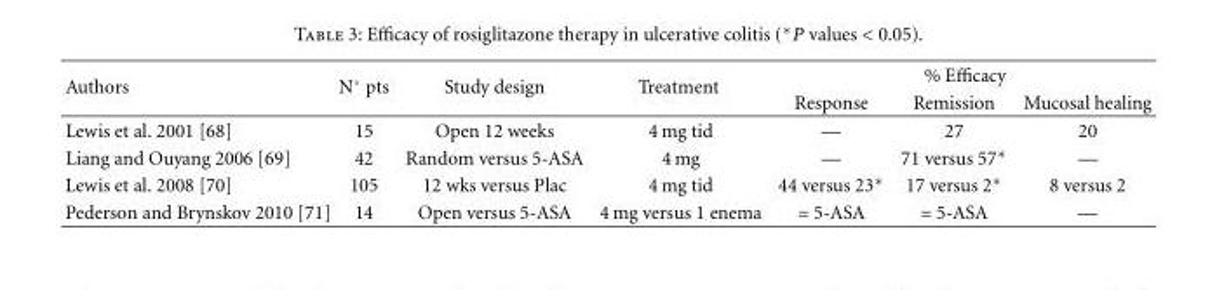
<table><thead><tr><td rowspan="2">Authors</td><td rowspan="2">N◦ pts</td><td rowspan="2">Study design</td><td rowspan="2">Treatment</td><td colspan="3">% Efficacy</td></tr><tr><td>Response</td><td>Remission</td><td>Mucosal healing</td></tr></thead><tbody><tr><td>Lewis et al. 2001 [68]</td><td>15</td><td>Open 12 weeks</td><td>4 mg tid</td><td>—</td><td>27</td><td>20</td></tr><tr><td>Liang and Ouyang 2006 [69]</td><td>42</td><td>Random versus 5-ASA</td><td>4 mg</td><td>—</td><td>71 versus 57∗</td><td>—</td></tr><tr><td>Lewis et al. 2008 [70]</td><td>105</td><td>12 wks versus Plac</td><td>4 mg tid</td><td>44 versus 23∗</td><td>17 versus 2∗</td><td>8 versus 2</td></tr><tr><td>Pederson and Brynskov 2010 [71]</td><td>14</td><td>Open versus 5-ASA</td><td>4 mg versus 1 enema</td><td>= 5-ASA</td><td>= 5-ASA</td><td>—</td></tr></tbody></table>